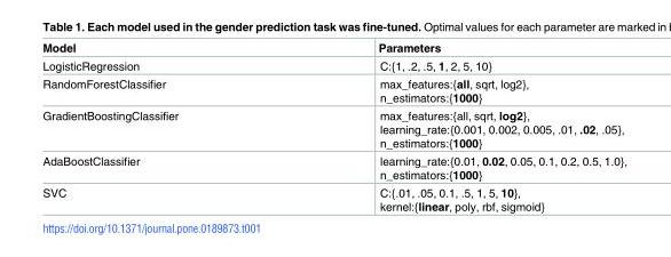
<table><thead><tr><td>Model</td><td>Parameters</td></tr></thead><tbody><tr><td>LogisticRegression</td><td>C:{1, .2, .5, 1, 2, 5, 10}</td></tr><tr><td>RandomForestClassifier</td><td>max_features:{all, sqrt, log2}, n_estimators:{1000}</td></tr><tr><td>GradientBoostingClassifier</td><td>max_features:{all, sqrt, log2}, learning_rate:{0.001, 0.002, 0.005, .01, .02, .05}, n_estimators:{1000}</td></tr><tr><td>AdaBoostClassifier</td><td>learning_rate:{0.01, 0.02, 0.05, 0.1, 0.2, 0.5, 1.0}, n_estimators:{1000}</td></tr><tr><td>SVC</td><td>C:{.01, .05, 0.1, .5, 1, 5, 10}, kernel:{linear, poly, rbf, sigmoid}</td></tr></tbody></table>